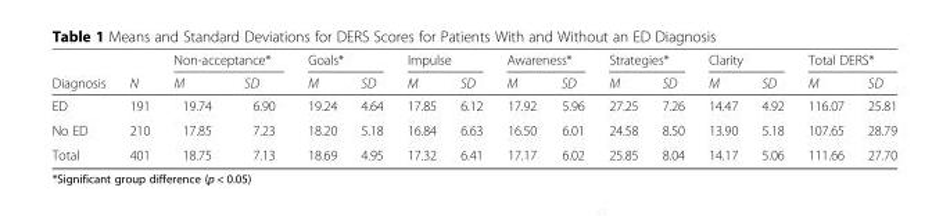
<table><thead><tr><td rowspan="2">Diagnosis</td><td rowspan="2">N</td><td colspan="2">Non-acceptance*</td><td colspan="2">Goals*</td><td colspan="2">Impulse</td><td colspan="2">Awareness*</td><td colspan="2">Strategies*</td><td colspan="2">Clarity</td><td colspan="2">Total DERS*</td></tr><tr><td>M</td><td>SD</td><td>M</td><td>SD</td><td>M</td><td>SD</td><td>M</td><td>SD</td><td>M</td><td>SD</td><td>M</td><td>SD</td><td>M</td><td>SD</td></tr></thead><tbody><tr><td>ED</td><td>191</td><td>19.74</td><td>6.90</td><td>19.24</td><td>4.64</td><td>17.85</td><td>6.12</td><td>17.92</td><td>5.96</td><td>27.25</td><td>7.26</td><td>14.47</td><td>4.92</td><td>116.07</td><td>25.81</td></tr><tr><td>No ED</td><td>210</td><td>17.85</td><td>7.23</td><td>18.20</td><td>5.18</td><td>16.84</td><td>6.63</td><td>16.50</td><td>6.01</td><td>24.58</td><td>8.50</td><td>13.90</td><td>5.18</td><td>107.65</td><td>28.79</td></tr><tr><td>Total</td><td>401</td><td>18.75</td><td>7.13</td><td>18.69</td><td>4.95</td><td>17.32</td><td>6.41</td><td>17.17</td><td>6.02</td><td>25.85</td><td>8.04</td><td>14.17</td><td>5.06</td><td>111.66</td><td>27.70</td></tr></tbody></table>